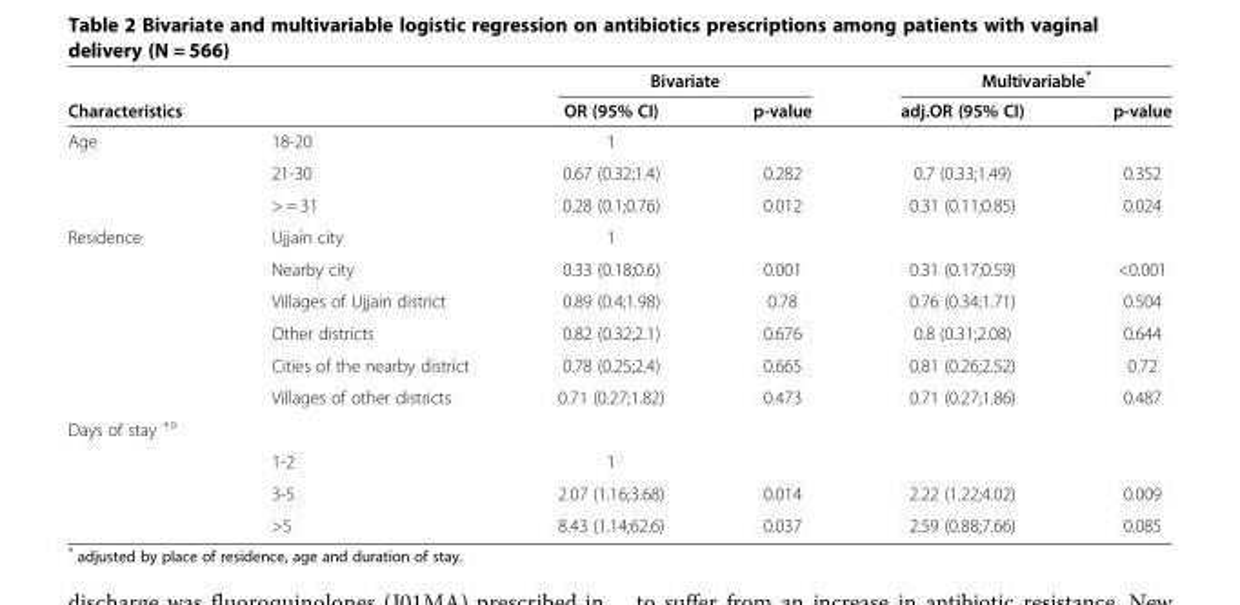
<table><thead><tr><td rowspan="2">Characteristics</td><td rowspan="2"></td><td colspan="2">Bivariate</td><td colspan="2">Multivariable*</td></tr><tr><td>OR (95% CI)</td><td>p-value</td><td>adj.OR (95% CI)</td><td>p-value</td></tr></thead><tbody><tr><td rowspan="3">Age</td><td>18-20</td><td>1</td><td></td><td></td><td></td></tr><tr><td>21-30</td><td>0.67 (0.32;1.4)</td><td>0.282</td><td>0.7 (0.33;1.49)</td><td>0.352</td></tr><tr><td>&gt; = 31</td><td>0.28 (0.1;0.76)</td><td>0.012</td><td>0.31 (0.11;0.85)</td><td>0.024</td></tr><tr><td rowspan="6">Residence</td><td>Ujjain city</td><td>1</td><td></td><td></td><td></td></tr><tr><td>Nearby city</td><td>0.33 (0.18;0.6)</td><td>0.001</td><td>0.31 (0.17;0.59)</td><td>&lt;0.001</td></tr><tr><td>Villages of Ujjain district</td><td>0.89 (0.4;1.98)</td><td>0.78</td><td>0.76 (0.34;1.71)</td><td>0.504</td></tr><tr><td>Other districts</td><td>0.82 (0.32;2.1)</td><td>0.676</td><td>0.8 (0.31;2.08)</td><td>0.644</td></tr><tr><td>Cities of the nearby district</td><td>0.78 (0.25;2.4)</td><td>0.665</td><td>0.81 (0.26;2.52)</td><td>0.72</td></tr><tr><td>Villages of other districts</td><td>0.71 (0.27;1.82)</td><td>0.473</td><td>0.71 (0.27;1.86)</td><td>0.487</td></tr><tr><td colspan="6">Days of stay <sup>+a</sup></td></tr><tr><td></td><td>1-2</td><td>1</td><td></td><td></td><td></td></tr><tr><td></td><td>3-5</td><td>2.07 (1.16;3.68)</td><td>0.014</td><td>2.22 (1.22;4.02)</td><td>0.009</td></tr><tr><td></td><td>&gt;5</td><td>8.43 (1.14;62.6)</td><td>0.037</td><td>2.59 (0.88;7.66)</td><td>0.085</td></tr></tbody></table>